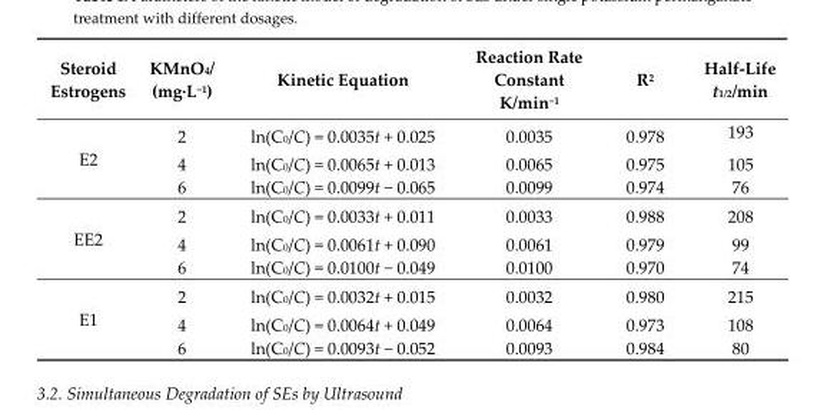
<table><thead><tr><td>Steroid Estrogens</td><td>KMnO<sub>4</sub>/ (mg·L<sup>−1</sup>)</td><td>Kinetic Equation</td><td>Reaction Rate Constant K/min<sup>−1</sup></td><td>R<sup>2</sup></td><td>Half-Life t<sub>1/2</sub>/min</td></tr></thead><tbody><tr><td rowspan="3">E2</td><td>2</td><td>ln(C<sub>0</sub>/C) = 0.0035t + 0.025</td><td>0.0035</td><td>0.978</td><td>193</td></tr><tr><td>4</td><td>ln(C<sub>0</sub>/C) = 0.0065t + 0.013</td><td>0.0065</td><td>0.975</td><td>105</td></tr><tr><td>6</td><td>ln(C<sub>0</sub>/C) = 0.0099t − 0.065</td><td>0.0099</td><td>0.974</td><td>76</td></tr><tr><td rowspan="3">EE2</td><td>2</td><td>ln(C<sub>0</sub>/C) = 0.0033t + 0.011</td><td>0.0033</td><td>0.988</td><td>208</td></tr><tr><td>4</td><td>ln(C<sub>0</sub>/C) = 0.0061t + 0.090</td><td>0.0061</td><td>0.979</td><td>99</td></tr><tr><td>6</td><td>ln(C<sub>0</sub>/C) = 0.0100t − 0.049</td><td>0.0100</td><td>0.970</td><td>74</td></tr><tr><td rowspan="3">E1</td><td>2</td><td>ln(C<sub>0</sub>/C) = 0.0032t + 0.015</td><td>0.0032</td><td>0.980</td><td>215</td></tr><tr><td>4</td><td>ln(C<sub>0</sub>/C) = 0.0064t + 0.049</td><td>0.0064</td><td>0.973</td><td>108</td></tr><tr><td>6</td><td>ln(C<sub>0</sub>/C) = 0.0093t − 0.052</td><td>0.0093</td><td>0.984</td><td>80</td></tr></tbody></table>